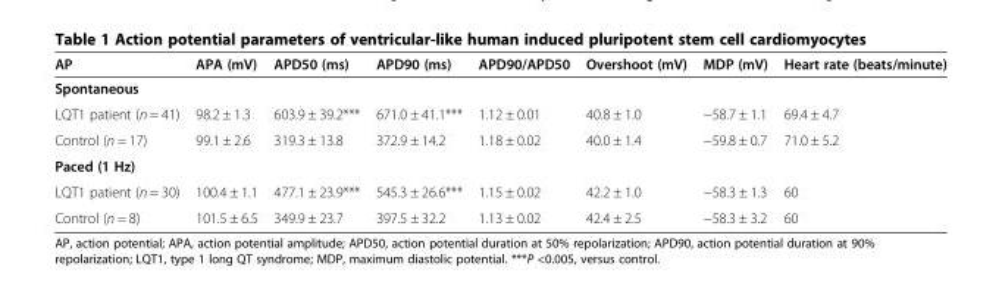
<table><thead><tr><td>AP</td><td>APA (mV)</td><td>APD50 (ms)</td><td>APD90 (ms)</td><td>APD90/APD50</td><td>Overshoot (mV)</td><td>MDP (mV)</td><td>Heart rate (beats/minute)</td></tr></thead><tbody><tr><td colspan="8">Spontaneous</td></tr><tr><td>LQT1 patient (n = 41)</td><td>98.2 ± 1.3</td><td>603.9 ± 39.2***</td><td>671.0 ± 41.1***</td><td>1.12 ± 0.01</td><td>40.8 ± 1.0</td><td>−58.7 ± 1.1</td><td>69.4 ± 4.7</td></tr><tr><td>Control (n = 17)</td><td>99.1 ± 2.6</td><td>319.3 ± 13.8</td><td>372.9 ± 14.2</td><td>1.18 ± 0.02</td><td>40.0 ± 1.4</td><td>−59.8 ± 0.7</td><td>71.0 ± 5.2</td></tr><tr><td colspan="8">Paced (1 Hz)</td></tr><tr><td>LQT1 patient (n = 30)</td><td>100.4 ± 1.1</td><td>477.1 ± 23.9***</td><td>545.3 ± 26.6***</td><td>1.15 ± 0.02</td><td>42.2 ± 1.0</td><td>−58.3 ± 1.3</td><td>60</td></tr><tr><td>Control (n = 8)</td><td>101.5 ± 6.5</td><td>349.9 ± 23.7</td><td>397.5 ± 32.2</td><td>1.13 ± 0.02</td><td>42.4 ± 2.5</td><td>−58.3 ± 3.2</td><td>60</td></tr></tbody></table>